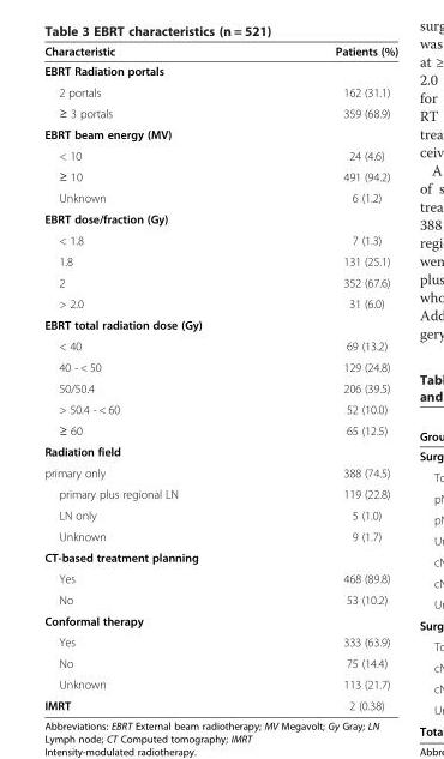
<table><thead><tr><td>Characteristic</td><td>Patients (%)</td></tr></thead><tbody><tr><td colspan="2">EBRT Radiation portals</td></tr><tr><td>2 portals</td><td>162 (31.1)</td></tr><tr><td>≥ 3 portals</td><td>359 (68.9)</td></tr><tr><td colspan="2">EBRT beam energy (MV)</td></tr><tr><td>&lt; 10</td><td>24 (4.6)</td></tr><tr><td>≥ 10</td><td>491 (94.2)</td></tr><tr><td>Unknown</td><td>6 (1.2)</td></tr><tr><td colspan="2">EBRT dose/fraction (Gy)</td></tr><tr><td>&lt; 1.8</td><td>7 (1.3)</td></tr><tr><td>1.8</td><td>131 (25.1)</td></tr><tr><td>2</td><td>352 (67.6)</td></tr><tr><td>&gt; 2.0</td><td>31 (6.0)</td></tr><tr><td colspan="2">EBRT total radiation dose (Gy)</td></tr><tr><td>&lt; 40</td><td>69 (13.2)</td></tr><tr><td>40 - &lt; 50</td><td>129 (24.8)</td></tr><tr><td>50/50.4</td><td>206 (39.5)</td></tr><tr><td>&gt; 50.4 - &lt; 60</td><td>52 (10.0)</td></tr><tr><td>≥ 60</td><td>65 (12.5)</td></tr><tr><td colspan="2">Radiation field</td></tr><tr><td>primary only</td><td>388 (74.5)</td></tr><tr><td>primary plus regional LN</td><td>119 (22.8)</td></tr><tr><td>LN only</td><td>5 (1.0)</td></tr><tr><td>Unknown</td><td>9 (1.7)</td></tr><tr><td colspan="2">CT-based treatment planning</td></tr><tr><td>Yes</td><td>468 (89.8)</td></tr><tr><td>No</td><td>53 (10.2)</td></tr><tr><td colspan="2">Conformal therapy</td></tr><tr><td>Yes</td><td>333 (63.9)</td></tr><tr><td>No</td><td>75 (14.4)</td></tr><tr><td>Unknown</td><td>113 (21.7)</td></tr><tr><td>IMRT</td><td>2 (0.38)</td></tr></tbody></table>